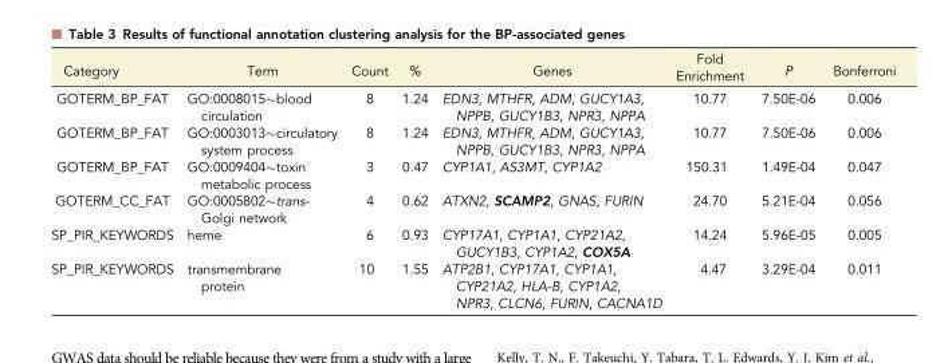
<table><thead><tr><td>Category</td><td>Term</td><td>Count</td><td>%</td><td>Genes</td><td>Fold Enrichment</td><td>P</td><td>Bonferroni</td></tr></thead><tbody><tr><td>GOTERM_BP_FAT</td><td>GO:0008015∼blood circulation</td><td>8</td><td>1.24</td><td>EDN3, MTHFR, ADM, GUCY1A3, NPPB, GUCY1B3, NPR3, NPPA</td><td>10.77</td><td>7.50E-06</td><td>0.006</td></tr><tr><td>GOTERM_BP_FAT</td><td>GO:0003013∼circulatory system process</td><td>8</td><td>1.24</td><td>EDN3, MTHFR, ADM, GUCY1A3, NPPB, GUCY1B3, NPR3, NPPA</td><td>10.77</td><td>7.50E-06</td><td>0.006</td></tr><tr><td>GOTERM_BP_FAT</td><td>GO:0009404∼toxin metabolic process</td><td>3</td><td>0.47</td><td>CYP1A1, AS3MT, CYP1A2</td><td>150.31</td><td>1.49E-04</td><td>0.047</td></tr><tr><td>GOTERM_CC_FAT</td><td>GO:0005802∼trans- Golgi network</td><td>4</td><td>0.62</td><td>ATXN2, SCAMP2, GNAS, FURIN</td><td>24.70</td><td>5.21E-04</td><td>0.056</td></tr><tr><td>SP_PIR_KEYWORDS</td><td>heme</td><td>6</td><td>0.93</td><td>CYP17A1, CYP1A1, CYP21A2, GUCY1B3, CYP1A2, COX5A</td><td>14.24</td><td>5.96E-05</td><td>0.005</td></tr><tr><td>SP_PIR_KEYWORDS</td><td>transmembrane protein</td><td>10</td><td>1.55</td><td>ATP2B1, CYP17A1, CYP1A1, CYP21A2, HLA-B, CYP1A2, NPR3, CLCN6, FURIN, CACNA1D</td><td>4.47</td><td>3.29E-04</td><td>0.011</td></tr></tbody></table>